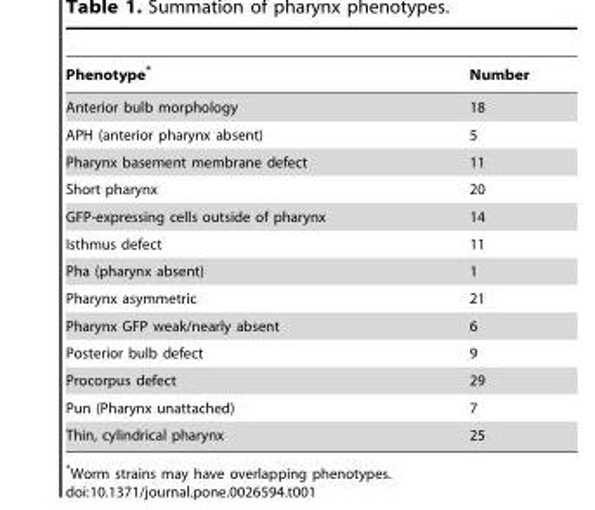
<table><thead><tr><td>Phenotype*</td><td>Number</td></tr></thead><tbody><tr><td>Anterior bulb morphology</td><td>18</td></tr><tr><td>APH (anterior pharynx absent)</td><td>5</td></tr><tr><td>Pharynx basement membrane defect</td><td>11</td></tr><tr><td>Short pharynx</td><td>20</td></tr><tr><td>GFP-expressing cells outside of pharynx</td><td>14</td></tr><tr><td>Isthmus defect</td><td>11</td></tr><tr><td>Pha (pharynx absent)</td><td>1</td></tr><tr><td>Pharynx asymmetric</td><td>21</td></tr><tr><td>Pharynx GFP weak/nearly absent</td><td>6</td></tr><tr><td>Posterior bulb defect</td><td>9</td></tr><tr><td>Procorpus defect</td><td>29</td></tr><tr><td>Pun (Pharynx unattached)</td><td>7</td></tr><tr><td>Thin, cylindrical pharynx</td><td>25</td></tr></tbody></table>